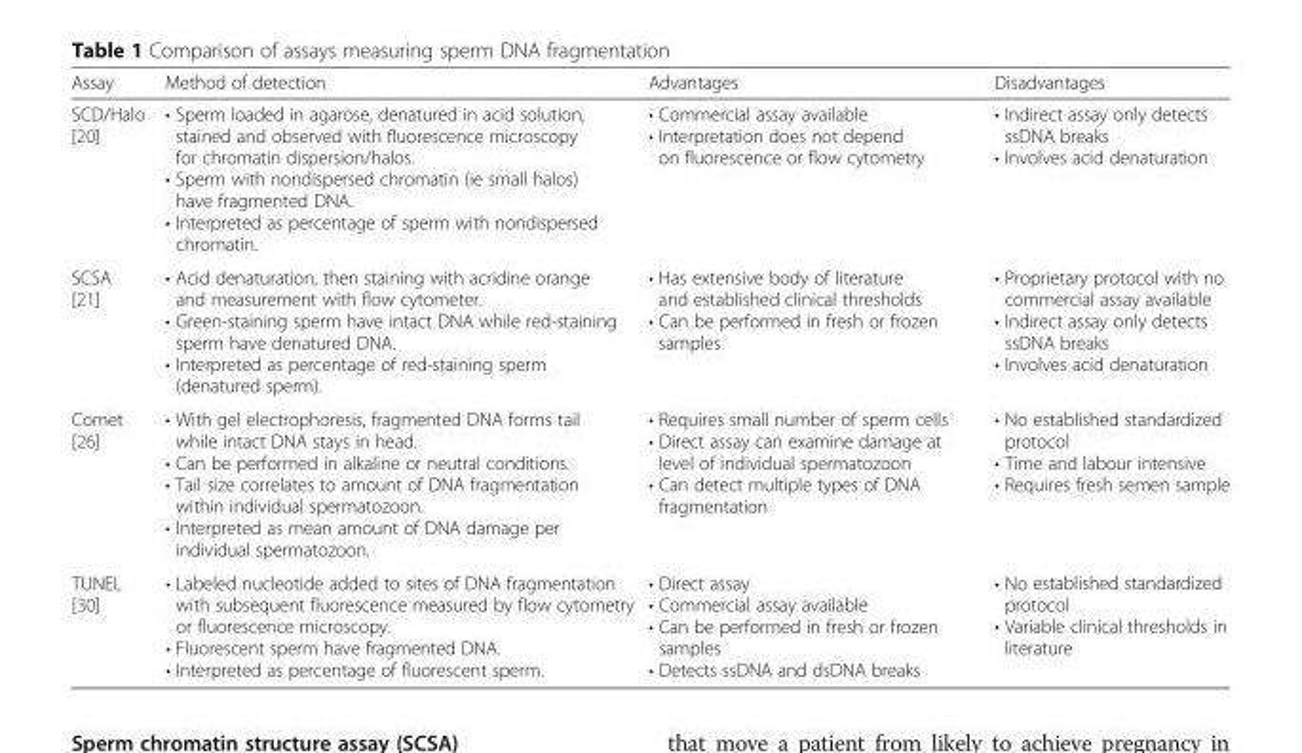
<table><thead><tr><td>Assay</td><td>Method of detection</td><td>Advantages</td><td>Disadvantages</td></tr></thead><tbody><tr><td>SCD/Halo [20]</td><td>• Sperm loaded in agarose, denatured in acid solution, stained and observed with fluorescence microscopy for chromatin dispersion/halos. • Sperm with nondispersed chromatin (ie small halos) have fragmented DNA. • Interpreted as percentage of sperm with nondispersed chromatin.</td><td>• Commercial assay available • Interpretation does not depend on fluorescence or flow cytometry</td><td>• Indirect assay only detects ssDNA breaks • Involves acid denaturation</td></tr><tr><td>SCSA [21]</td><td>• Acid denaturation, then staining with acridine orange and measurement with flow cytometer. • Green-staining sperm have intact DNA while red-staining sperm have denatured DNA. • Interpreted as percentage of red-staining sperm (denatured sperm).</td><td>• Has extensive body of literature and established clinical thresholds • Can be performed in fresh or frozen samples</td><td>• Proprietary protocol with no commercial assay available • Indirect assay only detects ssDNA breaks • Involves acid denaturation</td></tr><tr><td>Comet [26]</td><td>• With gel electrophoresis, fragmented DNA forms tail while intact DNA stays in head. • Can be performed in alkaline or neutral conditions. • Tail size correlates to amount of DNA fragmentation within individual spermatozoon. • Interpreted as mean amount of DNA damage per individual spermatozoon.</td><td>• Requires small number of sperm cells • Direct assay can examine damage at level of individual spermatozoon • Can detect multiple types of DNA fragmentation</td><td>• No established standardized protocol • Time and labour intensive • Requires fresh semen sample</td></tr><tr><td>TUNEL [30]</td><td>• Labeled nucleotide added to sites of DNA fragmentation with subsequent fluorescence measured by flow cytometry or fluorescence microscopy. • Fluorescent sperm have fragmented DNA. • Interpreted as percentage of fluorescent sperm.</td><td>• Direct assay • Commercial assay available • Can be performed in fresh or frozen samples • Detects ssDNA and dsDNA breaks</td><td>• No established standardized protocol • Variable clinical thresholds in literature</td></tr></tbody></table>